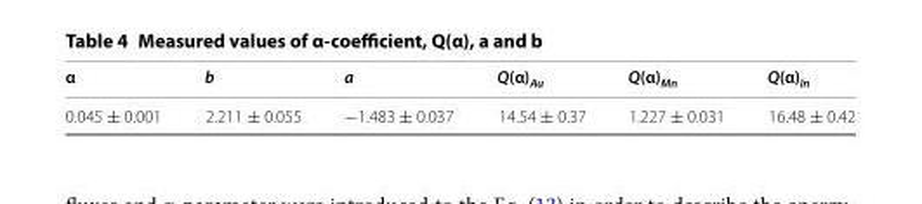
<table><thead><tr><td>α</td><td>b</td><td>a</td><td>Q(α)<sub>Au</sub></td><td>Q(α)<sub>Mn</sub></td><td>Q(α)<sub>In</sub></td></tr></thead><tbody><tr><td>0.045 ± 0.001</td><td>2.211 ± 0.055</td><td>−1.483 ± 0.037</td><td>14.54 ± 0.37</td><td>1.227 ± 0.031</td><td>16.48 ± 0.42</td></tr></tbody></table>